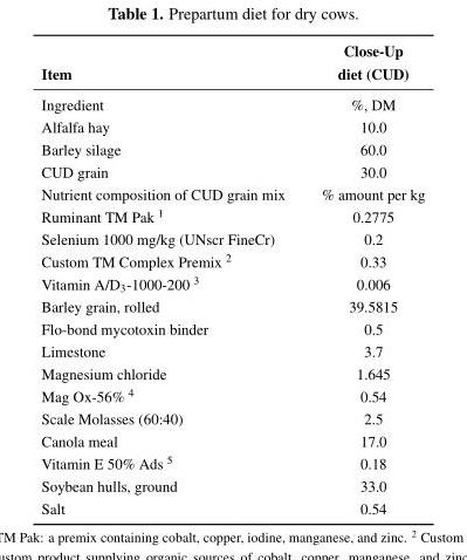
<table><thead><tr><td rowspan="2">Item</td><td rowspan="2">Close-Up diet (CUD)</td></tr><tr></tr></thead><tbody><tr><td>Ingredient</td><td>%, DM</td></tr><tr><td>Alfalfa hay</td><td>10.0</td></tr><tr><td>Barley silage</td><td>60.0</td></tr><tr><td>CUD grain</td><td>30.0</td></tr><tr><td>Nutrient composition of CUD grain mix</td><td>% amount per kg</td></tr><tr><td>Ruminant TM Pak <sup>1</sup></td><td>0.2775</td></tr><tr><td>Selenium 1000 mg/kg (UNscr FineCr)</td><td>0.2</td></tr><tr><td>Custom TM Complex Premix <sup>2</sup></td><td>0.33</td></tr><tr><td>Vitamin A/D<sub>3</sub>-1000-200 <sup>3</sup></td><td>0.006</td></tr><tr><td>Barley grain, rolled</td><td>39.5815</td></tr><tr><td>Flo-bond mycotoxin binder</td><td>0.5</td></tr><tr><td>Limestone</td><td>3.7</td></tr><tr><td>Magnesium chloride</td><td>1.645</td></tr><tr><td>Mag Ox-56% <sup>4</sup></td><td>0.54</td></tr><tr><td>Scale Molasses (60:40)</td><td>2.5</td></tr><tr><td>Canola meal</td><td>17.0</td></tr><tr><td>Vitamin E 50% Ads <sup>5</sup></td><td>0.18</td></tr><tr><td>Soybean hulls, ground</td><td>33.0</td></tr><tr><td>Salt</td><td>0.54</td></tr></tbody></table>